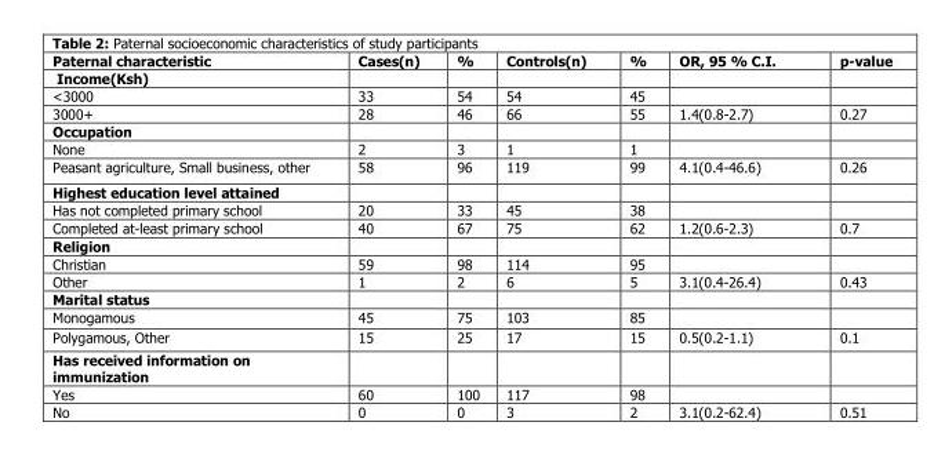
<table><thead><tr><td>Paternal characteristic</td><td>Cases(n)</td><td>%</td><td>Controls(n)</td><td>%</td><td>OR, 95 % C.I.</td><td>p-value</td></tr></thead><tbody><tr><td colspan="7">Income(Ksh)</td></tr><tr><td>&lt;3000</td><td>33</td><td>54</td><td>54</td><td>45</td><td></td><td></td></tr><tr><td>3000+</td><td>28</td><td>46</td><td>66</td><td>55</td><td>1.4(0.8-2.7)</td><td>0.27</td></tr><tr><td colspan="7">Occupation</td></tr><tr><td>None</td><td>2</td><td>3</td><td>1</td><td>1</td><td></td><td></td></tr><tr><td>Peasant agriculture, Small business, other</td><td>58</td><td>96</td><td>119</td><td>99</td><td>4.1(0.4-46.6)</td><td>0.26</td></tr><tr><td colspan="7">Highest education level attained</td></tr><tr><td>Has not completed primary school</td><td>20</td><td>33</td><td>45</td><td>38</td><td></td><td></td></tr><tr><td>Completed at-least primary school</td><td>40</td><td>67</td><td>75</td><td>62</td><td>1.2(0.6-2.3)</td><td>0.7</td></tr><tr><td colspan="7">Religion</td></tr><tr><td>Christian</td><td>59</td><td>98</td><td>114</td><td>95</td><td></td><td></td></tr><tr><td>Other</td><td>1</td><td>2</td><td>6</td><td>5</td><td>3.1(0.4-26.4)</td><td>0.43</td></tr><tr><td colspan="7">Marital status</td></tr><tr><td>Monogamous</td><td>45</td><td>75</td><td>103</td><td>85</td><td></td><td></td></tr><tr><td>Polygamous, Other</td><td>15</td><td>25</td><td>17</td><td>15</td><td>0.5(0.2-1.1)</td><td>0.1</td></tr><tr><td colspan="7">Has received information on immunization</td></tr><tr><td>Yes</td><td>60</td><td>100</td><td>117</td><td>98</td><td></td><td></td></tr><tr><td>No</td><td>0</td><td>0</td><td>3</td><td>2</td><td>3.1(0.2-62.4)</td><td>0.51</td></tr></tbody></table>